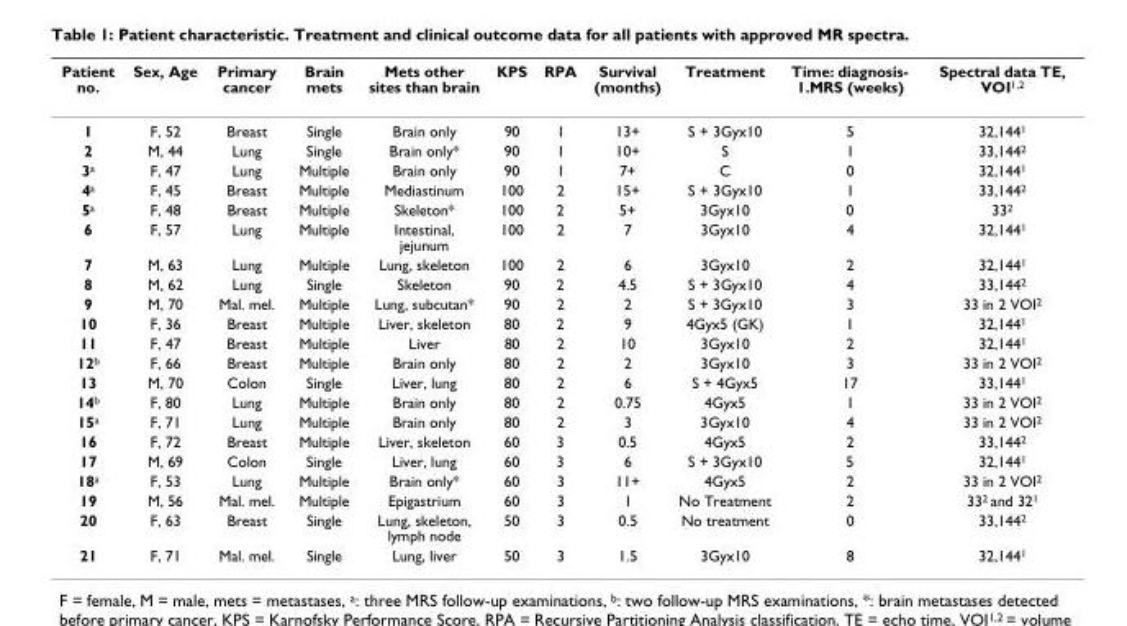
<table><thead><tr><td>Patient no.</td><td>Sex, Age</td><td>Primary cancer</td><td>Brain mets</td><td>Mets other sites than brain</td><td>KPS</td><td>RPA</td><td>Survival (months)</td><td>Treatment</td><td>Time: diagnosis- 1.MRS (weeks)</td><td>Spectral data TE, VOI<sup>1,2</sup></td></tr></thead><tbody><tr><td>1</td><td>F, 52</td><td>Breast</td><td>Single</td><td>Brain only</td><td>90</td><td>1</td><td>13+</td><td>S + 3Gyx10</td><td>5</td><td>32,144<sup>1</sup></td></tr><tr><td>2</td><td>M, 44</td><td>Lung</td><td>Single</td><td>Brain only*</td><td>90</td><td>1</td><td>10+</td><td>S</td><td>1</td><td>33,144<sup>2</sup></td></tr><tr><td>3<sup>a</sup></td><td>F, 47</td><td>Lung</td><td>Multiple</td><td>Brain only</td><td>90</td><td>1</td><td>7+</td><td>C</td><td>0</td><td>32,144<sup>1</sup></td></tr><tr><td>4<sup>a</sup></td><td>F, 45</td><td>Breast</td><td>Multiple</td><td>Mediastinum</td><td>100</td><td>2</td><td>15+</td><td>S + 3Gyx10</td><td>1</td><td>33,144<sup>2</sup></td></tr><tr><td>5<sup>a</sup></td><td>F, 48</td><td>Breast</td><td>Multiple</td><td>Skeleton*</td><td>100</td><td>2</td><td>5+</td><td>3Gyx10</td><td>0</td><td>33<sup>2</sup></td></tr><tr><td>6</td><td>F, 57</td><td>Lung</td><td>Multiple</td><td>Intestinal, jejunum</td><td>100</td><td>2</td><td>7</td><td>3Gyx10</td><td>4</td><td>32,144<sup>1</sup></td></tr><tr><td>7</td><td>M, 63</td><td>Lung</td><td>Multiple</td><td>Lung, skeleton</td><td>100</td><td>2</td><td>6</td><td>3Gyx10</td><td>2</td><td>32,144<sup>1</sup></td></tr><tr><td>8</td><td>M, 62</td><td>Lung</td><td>Single</td><td>Skeleton</td><td>90</td><td>2</td><td>4.5</td><td>S + 3Gyx10</td><td>4</td><td>33,144<sup>2</sup></td></tr><tr><td>9</td><td>M, 70</td><td>Mal. mel.</td><td>Multiple</td><td>Lung, subcutan*</td><td>90</td><td>2</td><td>2</td><td>S + 3Gyx10</td><td>3</td><td>33 in 2 VOI<sup>2</sup></td></tr><tr><td>10</td><td>F, 36</td><td>Breast</td><td>Multiple</td><td>Liver, skeleton</td><td>80</td><td>2</td><td>9</td><td>4Gyx5 (GK)</td><td>1</td><td>32,144<sup>1</sup></td></tr><tr><td>11</td><td>F, 47</td><td>Breast</td><td>Multiple</td><td>Liver</td><td>80</td><td>2</td><td>10</td><td>3Gyx10</td><td>2</td><td>32,144<sup>1</sup></td></tr><tr><td>12<sup>b</sup></td><td>F, 66</td><td>Breast</td><td>Multiple</td><td>Brain only</td><td>80</td><td>2</td><td>2</td><td>3Gyx10</td><td>3</td><td>33 in 2 VOI<sup>2</sup></td></tr><tr><td>13</td><td>M, 70</td><td>Colon</td><td>Single</td><td>Liver, lung</td><td>80</td><td>2</td><td>6</td><td>S + 4Gyx5</td><td>17</td><td>33,144<sup>1</sup></td></tr><tr><td>14<sup>b</sup></td><td>F, 80</td><td>Lung</td><td>Multiple</td><td>Brain only</td><td>80</td><td>2</td><td>0.75</td><td>4Gyx5</td><td>1</td><td>33 in 2 VOI<sup>2</sup></td></tr><tr><td>15<sup>a</sup></td><td>F, 71</td><td>Lung</td><td>Multiple</td><td>Brain only</td><td>80</td><td>2</td><td>3</td><td>3Gyx10</td><td>4</td><td>33 in 2 VOI<sup>2</sup></td></tr><tr><td>16</td><td>F, 72</td><td>Breast</td><td>Multiple</td><td>Liver, skeleton</td><td>60</td><td>3</td><td>0.5</td><td>4Gyx5</td><td>2</td><td>33,144<sup>2</sup></td></tr><tr><td>17</td><td>M, 69</td><td>Colon</td><td>Single</td><td>Liver, lung</td><td>60</td><td>3</td><td>6</td><td>S + 3Gyx10</td><td>5</td><td>32,144<sup>1</sup></td></tr><tr><td>18<sup>a</sup></td><td>F, 53</td><td>Lung</td><td>Multiple</td><td>Brain only*</td><td>60</td><td>3</td><td>11+</td><td>4Gyx5</td><td>2</td><td>33 in 2 VOI<sup>2</sup></td></tr><tr><td>19</td><td>M, 56</td><td>Mal. mel.</td><td>Multiple</td><td>Epigastrium</td><td>60</td><td>3</td><td>1</td><td>No Treatment</td><td>2</td><td>33<sup>2</sup> and 32<sup>1</sup></td></tr><tr><td>20</td><td>F, 63</td><td>Breast</td><td>Single</td><td>Lung, skeleton, lymph node</td><td>50</td><td>3</td><td>0.5</td><td>No treatment</td><td>0</td><td>33,144<sup>2</sup></td></tr><tr><td>21</td><td>F, 71</td><td>Mal. mel.</td><td>Single</td><td>Lung, liver</td><td>50</td><td>3</td><td>1.5</td><td>3Gyx10</td><td>8</td><td>32,144<sup>1</sup></td></tr></tbody></table>